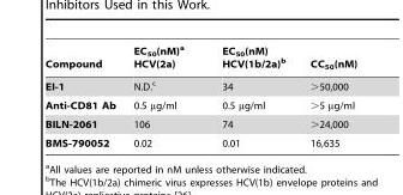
<table><thead><tr><td>Compound</td><td>EC<sub>50</sub>(nM)<sup>a</sup> HCV(2a)</td><td>EC<sub>50</sub>(nM) HCV(1b/2a)<sup>b</sup></td><td>CC<sub>50</sub>(nM)</td></tr></thead><tbody><tr><td>EI-1</td><td>N.D.<sup>c</sup></td><td>34</td><td>&gt;50,000</td></tr><tr><td>Anti-CD81 Ab</td><td>0.5 µg/ml</td><td>0.5 µg/ml</td><td>&gt;5 µg/ml</td></tr><tr><td>BILN-2061</td><td>106</td><td>74</td><td>&gt;24,000</td></tr><tr><td>BMS-790052</td><td>0.02</td><td>0.01</td><td>16,635</td></tr></tbody></table>